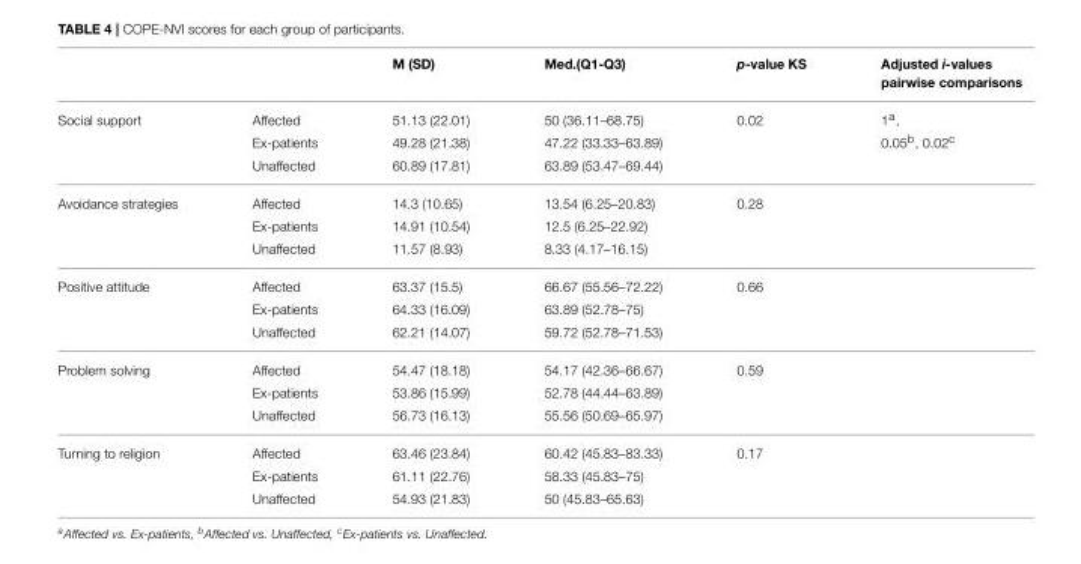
<table><thead><tr><td></td><td></td><td>M (SD)</td><td>Med.(Q1-Q3)</td><td>p-value KS</td><td>Adjusted i-values pairwise comparisons</td></tr></thead><tbody><tr><td rowspan="3">Social support</td><td>Affected</td><td>51.13 (22.01)</td><td>50 (36.11–68.75)</td><td>0.02</td><td>1a,</td></tr><tr><td>Ex-patients</td><td>49.28 (21.38)</td><td>47.22 (33.33–63.89)</td><td></td><td>0.05<sup>b</sup>, 0.02<sup>c</sup></td></tr><tr><td>Unaffected</td><td>60.89 (17.81)</td><td>63.89 (53.47–69.44)</td><td></td><td></td></tr><tr><td rowspan="3">Avoidance strategies</td><td>Affected</td><td>14.3 (10.65)</td><td>13.54 (6.25–20.83)</td><td>0.28</td><td></td></tr><tr><td>Ex-patients</td><td>14.91 (10.54)</td><td>12.5 (6.25–22.92)</td><td></td><td></td></tr><tr><td>Unaffected</td><td>11.57 (8.93)</td><td>8.33 (4.17–16.15)</td><td></td><td></td></tr><tr><td rowspan="3">Positive attitude</td><td>Affected</td><td>63.37 (15.5)</td><td>66.67 (55.56–72.22)</td><td>0.66</td><td></td></tr><tr><td>Ex-patients</td><td>64.33 (16.09)</td><td>63.89 (52.78–75)</td><td></td><td></td></tr><tr><td>Unaffected</td><td>62.21 (14.07)</td><td>59.72 (52.78–71.53)</td><td></td><td></td></tr><tr><td rowspan="3">Problem solving</td><td>Affected</td><td>54.47 (18.18)</td><td>54.17 (42.36–66.67)</td><td>0.59</td><td></td></tr><tr><td>Ex-patients</td><td>53.86 (15.99)</td><td>52.78 (44.44–63.89)</td><td></td><td></td></tr><tr><td>Unaffected</td><td>56.73 (16.13)</td><td>55.56 (50.69–65.97)</td><td></td><td></td></tr><tr><td rowspan="3">Turning to religion</td><td>Affected</td><td>63.46 (23.84)</td><td>60.42 (45.83–83.33)</td><td>0.17</td><td></td></tr><tr><td>Ex-patients</td><td>61.11 (22.76)</td><td>58.33 (45.83–75)</td><td></td><td></td></tr><tr><td>Unaffected</td><td>54.93 (21.83)</td><td>50 (45.83–65.63)</td><td></td><td></td></tr></tbody></table>